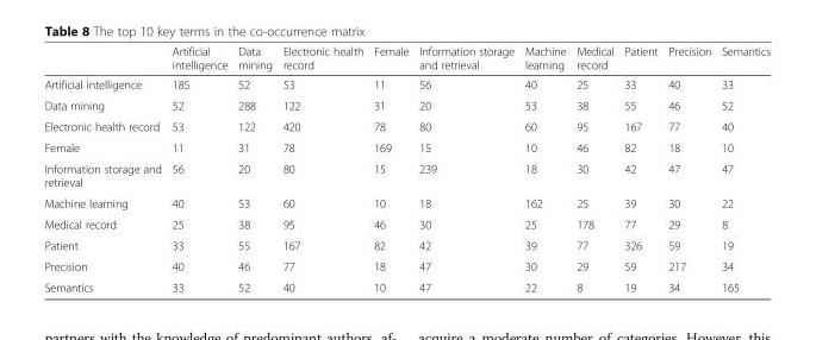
<table><thead><tr><td></td><td>Artificial intelligence</td><td>Data mining</td><td>Electronic health record</td><td>Female</td><td>Information storage and retrieval</td><td>Machine learning</td><td>Medical record</td><td>Patient</td><td>Precision</td><td>Semantics</td></tr></thead><tbody><tr><td>Artificial intelligence</td><td>185</td><td>52</td><td>53</td><td>11</td><td>56</td><td>40</td><td>25</td><td>33</td><td>40</td><td>33</td></tr><tr><td>Data mining</td><td>52</td><td>288</td><td>122</td><td>31</td><td>20</td><td>53</td><td>38</td><td>55</td><td>46</td><td>52</td></tr><tr><td>Electronic health record</td><td>53</td><td>122</td><td>420</td><td>78</td><td>80</td><td>60</td><td>95</td><td>167</td><td>77</td><td>40</td></tr><tr><td>Female</td><td>11</td><td>31</td><td>78</td><td>169</td><td>15</td><td>10</td><td>46</td><td>82</td><td>18</td><td>10</td></tr><tr><td>Information storage and retrieval</td><td>56</td><td>20</td><td>80</td><td>15</td><td>239</td><td>18</td><td>30</td><td>42</td><td>47</td><td>47</td></tr><tr><td>Machine learning</td><td>40</td><td>53</td><td>60</td><td>10</td><td>18</td><td>162</td><td>25</td><td>39</td><td>30</td><td>22</td></tr><tr><td>Medical record</td><td>25</td><td>38</td><td>95</td><td>46</td><td>30</td><td>25</td><td>178</td><td>77</td><td>29</td><td>8</td></tr><tr><td>Patient</td><td>33</td><td>55</td><td>167</td><td>82</td><td>42</td><td>39</td><td>77</td><td>326</td><td>59</td><td>19</td></tr><tr><td>Precision</td><td>40</td><td>46</td><td>77</td><td>18</td><td>47</td><td>30</td><td>29</td><td>59</td><td>217</td><td>34</td></tr><tr><td>Semantics</td><td>33</td><td>52</td><td>40</td><td>10</td><td>47</td><td>22</td><td>8</td><td>19</td><td>34</td><td>165</td></tr></tbody></table>